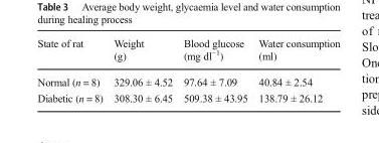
<table><thead><tr><td>State of rat</td><td>Weight (g)</td><td>Blood glucose (mg dl<sup>−1</sup>)</td><td>Water consumption (ml)</td></tr></thead><tbody><tr><td>Normal (n = 8)</td><td>329.06 ± 4.52</td><td>97.64 ± 7.09</td><td>40.84 ± 2.54</td></tr><tr><td>Diabetic (n = 8)</td><td>308.30 ± 6.45</td><td>509.38 ± 43.95</td><td>138.79 ± 26.12</td></tr></tbody></table>